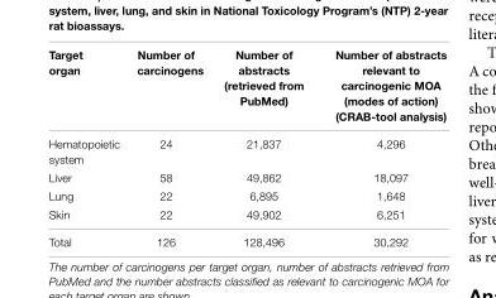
<table><thead><tr><td>Target organ</td><td>Number of carcinogens</td><td>Number of abstracts (retrieved from PubMed)</td><td>Number of abstracts relevant to carcinogenic MOA (modes of action) (CRAB-tool analysis)</td></tr></thead><tbody><tr><td>Hematopoietic system</td><td>24</td><td>21,837</td><td>4,296</td></tr><tr><td>Liver</td><td>58</td><td>49,862</td><td>18,097</td></tr><tr><td>Lung</td><td>22</td><td>6,895</td><td>1,648</td></tr><tr><td>Skin</td><td>22</td><td>49,902</td><td>6,251</td></tr><tr><td>Total</td><td>126</td><td>128,496</td><td>30,292</td></tr></tbody></table>